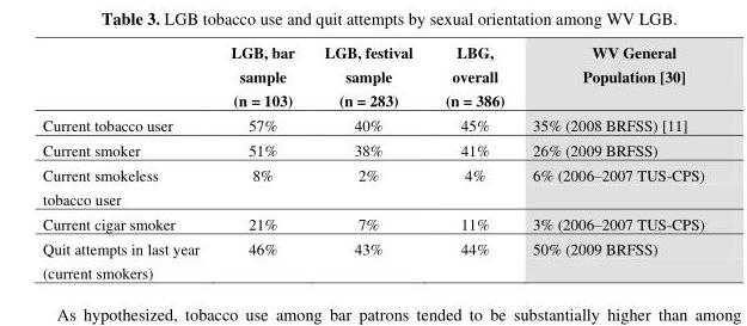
<table><thead><tr><td></td><td>LGB, bar sample (n = 103)</td><td>LGB, festival sample (n = 283)</td><td>LBG, overall (n = 386)</td><td>WV General Population [30]</td></tr></thead><tbody><tr><td>Current tobacco user</td><td>57%</td><td>40%</td><td>45%</td><td>35% (2008 BRFSS) [11]</td></tr><tr><td>Current smoker</td><td>51%</td><td>38%</td><td>41%</td><td>26% (2009 BRFSS)</td></tr><tr><td>Current smokeless tobacco user</td><td>8%</td><td>2%</td><td>4%</td><td>6% (2006–2007 TUS-CPS)</td></tr><tr><td>Current cigar smoker</td><td>21%</td><td>7%</td><td>11%</td><td>3% (2006–2007 TUS-CPS)</td></tr><tr><td>Quit attempts in last year (current smokers)</td><td>46%</td><td>43%</td><td>44%</td><td>50% (2009 BRFSS)</td></tr></tbody></table>